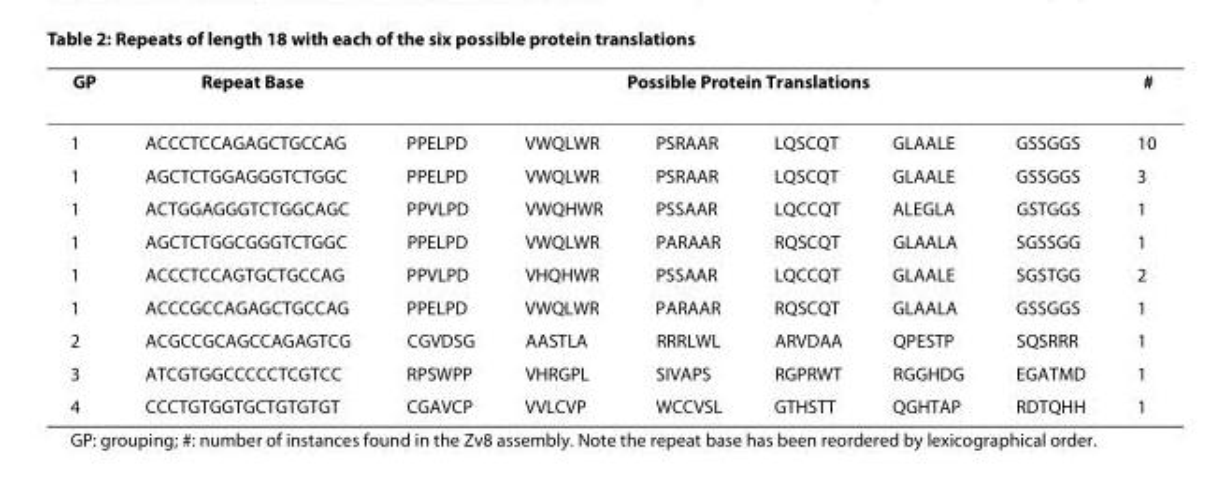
<table><thead><tr><td rowspan="2">GP 1</td><td rowspan="2">Repeat Base ACCCTCCAGAGCTGCCAG</td><td colspan="6">Possible Protein Translations</td><td rowspan="2"># 10</td></tr><tr><td>PPELPD</td><td>VWQLWR</td><td>PSRAAR</td><td>LQSCQT</td><td>GLAALE</td><td>GSSGGS</td></tr></thead><tbody><tr><td>1</td><td>AGCTCTGGAGGGTCTGGC</td><td>PPELPD</td><td>VWQLWR</td><td>PSRAAR</td><td>LQSCQT</td><td>GLAALE</td><td>GSSGGS</td><td>3</td></tr><tr><td>1</td><td>ACTGGAGGGTCTGGCAGC</td><td>PPVLPD</td><td>VWQHWR</td><td>PSSAAR</td><td>LQCCQT</td><td>ALEGLA</td><td>GSTGGS</td><td>1</td></tr><tr><td>1</td><td>AGCTCTGGCGGGTCTGGC</td><td>PPELPD</td><td>VWQLWR</td><td>PARAAR</td><td>RQSCQT</td><td>GLAALA</td><td>SGSSGG</td><td>1</td></tr><tr><td>1</td><td>ACCCTCCAGTGCTGCCAG</td><td>PPVLPD</td><td>VHQHWR</td><td>PSSAAR</td><td>LQCCQT</td><td>GLAALE</td><td>SGSTGG</td><td>2</td></tr><tr><td>1</td><td>ACCCGCCAGAGCTGCCAG</td><td>PPELPD</td><td>VWQLWR</td><td>PARAAR</td><td>RQSCQT</td><td>GLAALA</td><td>GSSGGS</td><td>1</td></tr><tr><td>2</td><td>ACGCCGCAGCCAGAGTCG</td><td>CGVDSG</td><td>AASTLA</td><td>RRRLWL</td><td>ARVDAA</td><td>QPESTP</td><td>SQSRRR</td><td>1</td></tr><tr><td>3</td><td>ATCGTGGCCCCCTCGTCC</td><td>RPSWPP</td><td>VHRGPL</td><td>SIVAPS</td><td>RGPRWT</td><td>RGGHDG</td><td>EGATMD</td><td>1</td></tr><tr><td>4</td><td>CCCTGTGGTGCTGTGTGT</td><td>CGAVCP</td><td>VVLCVP</td><td>WCCVSL</td><td>GTHSTT</td><td>QGHTAP</td><td>RDTQHH</td><td>1</td></tr></tbody></table>